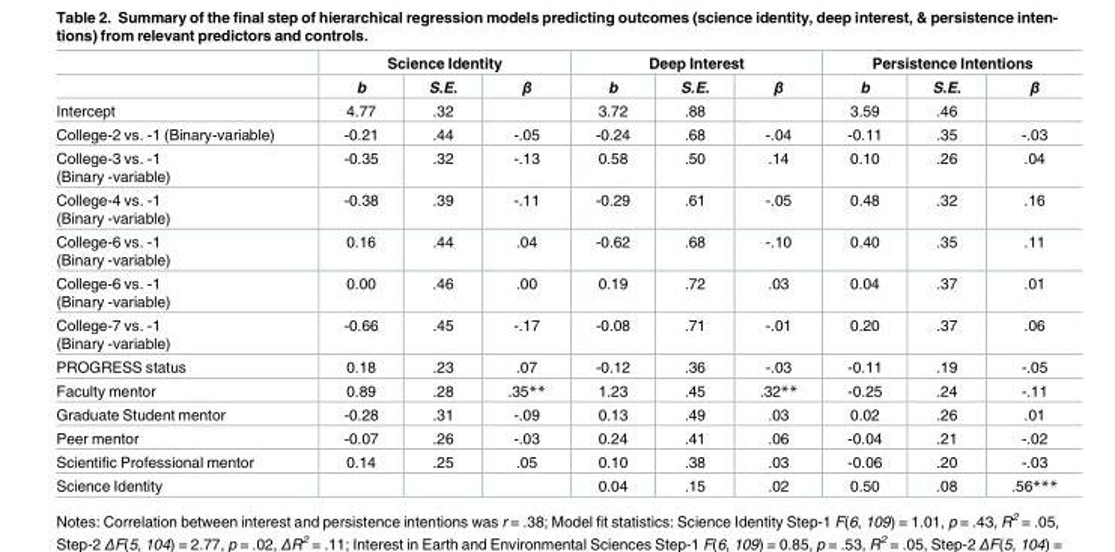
<table><thead><tr><td rowspan="2"></td><td colspan="3">Science Identity</td><td colspan="3">Deep Interest</td><td colspan="3">Persistence Intentions</td></tr><tr><td>b</td><td>S.E.</td><td>β</td><td>b</td><td>S.E.</td><td>β</td><td>b</td><td>S.E.</td><td>β</td></tr></thead><tbody><tr><td>Intercept</td><td>4.77</td><td>.32</td><td></td><td>3.72</td><td>.88</td><td></td><td>3.59</td><td>.46</td><td></td></tr><tr><td>College-2 vs. -1 (Binary-variable)</td><td>-0.21</td><td>.44</td><td>-.05</td><td>-0.24</td><td>.68</td><td>-.04</td><td>-0.11</td><td>.35</td><td>-.03</td></tr><tr><td>College-3 vs. -1 (Binary -variable)</td><td>-0.35</td><td>.32</td><td>-.13</td><td>0.58</td><td>.50</td><td>.14</td><td>0.10</td><td>.26</td><td>.04</td></tr><tr><td>College-4 vs. -1 (Binary -variable)</td><td>-0.38</td><td>.39</td><td>-.11</td><td>-0.29</td><td>.61</td><td>-.05</td><td>0.48</td><td>.32</td><td>.16</td></tr><tr><td>College-6 vs. -1 (Binary -variable)</td><td>0.16</td><td>.44</td><td>.04</td><td>-0.62</td><td>.68</td><td>-.10</td><td>0.40</td><td>.35</td><td>.11</td></tr><tr><td>College-6 vs. -1 (Binary -variable)</td><td>0.00</td><td>.46</td><td>.00</td><td>0.19</td><td>.72</td><td>.03</td><td>0.04</td><td>.37</td><td>.01</td></tr><tr><td>College-7 vs. -1 (Binary -variable)</td><td>-0.66</td><td>.45</td><td>-.17</td><td>-0.08</td><td>.71</td><td>-.01</td><td>0.20</td><td>.37</td><td>.06</td></tr><tr><td>PROGRESS status</td><td>0.18</td><td>.23</td><td>.07</td><td>-0.12</td><td>.36</td><td>-.03</td><td>-0.11</td><td>.19</td><td>-.05</td></tr><tr><td>Faculty mentor</td><td>0.89</td><td>.28</td><td>.35**</td><td>1.23</td><td>.45</td><td>.32**</td><td>-0.25</td><td>.24</td><td>-.11</td></tr><tr><td>Graduate Student mentor</td><td>-0.28</td><td>.31</td><td>-.09</td><td>0.13</td><td>.49</td><td>.03</td><td>0.02</td><td>.26</td><td>.01</td></tr><tr><td>Peer mentor</td><td>-0.07</td><td>.26</td><td>-.03</td><td>0.24</td><td>.41</td><td>.06</td><td>-0.04</td><td>.21</td><td>-.02</td></tr><tr><td>Scientific Professional mentor</td><td>0.14</td><td>.25</td><td>.05</td><td>0.10</td><td>.38</td><td>.03</td><td>-0.06</td><td>.20</td><td>-.03</td></tr><tr><td>Science Identity</td><td></td><td></td><td></td><td>0.04</td><td>.15</td><td>.02</td><td>0.50</td><td>.08</td><td>.56***</td></tr></tbody></table>